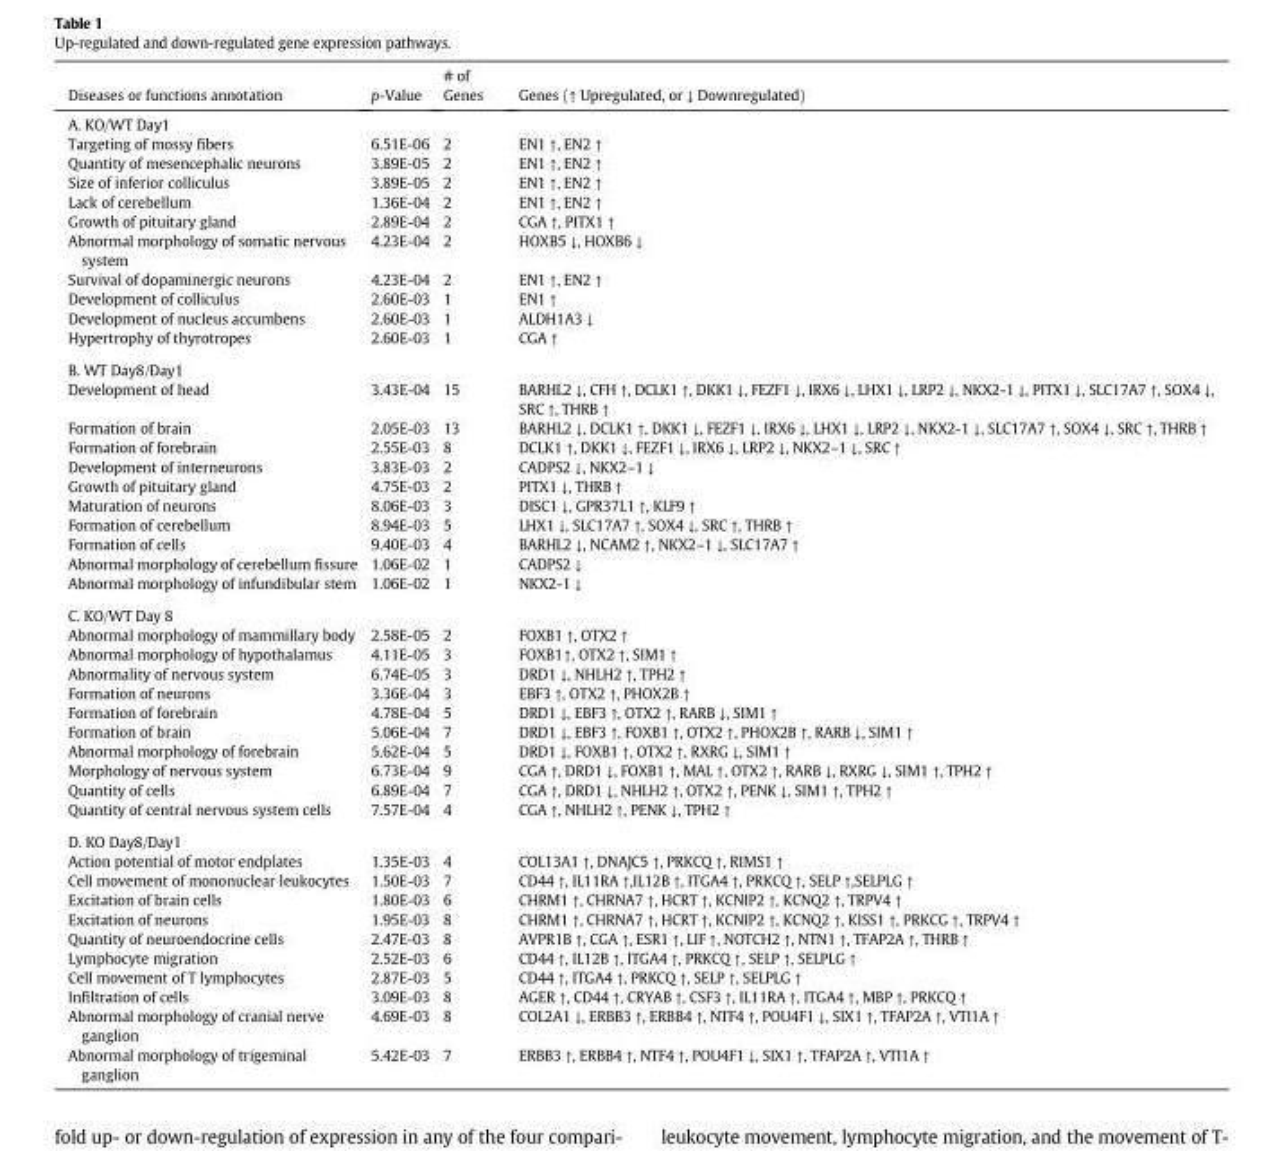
<table><thead><tr><td>Diseases or functions annotation</td><td>p-Value</td><td># of Genes</td><td>Genes (↑ Upregulated, or ↓ Downregulated)</td></tr></thead><tbody><tr><td colspan="4">A. KO/WT Day1</td></tr><tr><td>Targeting of mossy fibers</td><td>6.51E-06</td><td>2</td><td>EN1 ↑, EN2 ↑</td></tr><tr><td>Quantity of mesencephalic neurons</td><td>3.89E-05</td><td>2</td><td>EN1 ↑, EN2 ↑</td></tr><tr><td>Size of inferior colliculus</td><td>3.89E-05</td><td>2</td><td>EN1 ↑, EN2 ↑</td></tr><tr><td>Lack of cerebellum</td><td>1.36E-04</td><td>2</td><td>EN1 ↑, EN2 ↑</td></tr><tr><td>Growth of pituitary gland</td><td>2.89E-04</td><td>2</td><td>CGA ↑, PITX1 ↑</td></tr><tr><td>Abnormal morphology of somatic nervous system</td><td>4.23E-04</td><td>2</td><td>HOXB5 ↓, HOXB6 ↓</td></tr><tr><td>Survival of dopaminergic neurons</td><td>4.23E-04</td><td>2</td><td>EN1 ↑, EN2 ↑</td></tr><tr><td>Development of colliculus</td><td>2.60E-03</td><td>1</td><td>EN1 ↑</td></tr><tr><td>Development of nucleus accumbens</td><td>2.60E-03</td><td>1</td><td>ALDH1A3 ↓</td></tr><tr><td>Hypertrophy of thyrotropes</td><td>2.60E-03</td><td>1</td><td>CGA ↑</td></tr><tr><td colspan="4">B. WT Day8/Day1</td></tr><tr><td>Development of head</td><td>3.43E-04</td><td>15</td><td>BARHL2 ↓, CFH ↑, DCLK1 ↑, DKK1 ↓, FEZF1 ↓, IRX6 ↓, LHX1 ↓, LRP2 ↓, NKX2-1 ↓, PITX1 ↓, SLC17A7 ↑, SOX4 ↓, SRC ↑, THRB ↑</td></tr><tr><td>Formation of brain</td><td>2.05E-03</td><td>13</td><td>BARHL2 ↓, DCLK1 ↑, DKK1 ↓, FEZF1 ↓, IRX6 ↓, LHX1 ↓, LRP2 ↓, NKX2-1 ↓, SLC17A7 ↑, SOX4 ↓, SRC ↑, THRB ↑</td></tr><tr><td>Formation of forebrain</td><td>2.55E-03</td><td>8</td><td>DCLK1 ↑, DKK1 ↓, FEZF1 ↓, IRX6 ↓, LRP2 ↓, NKX2–1 ↓, SRC ↑</td></tr><tr><td>Development of interneurons</td><td>3.83E-03</td><td>2</td><td>CADPS2 ↓, NKX2–1 ↓</td></tr><tr><td>Growth of pituitary gland</td><td>4.75E-03</td><td>2</td><td>PITX1 ↓, THRB ↑</td></tr><tr><td>Maturation of neurons</td><td>8.06E-03</td><td>3</td><td>DISC1 ↓, GPR37L1 ↑, KLF9 ↑</td></tr><tr><td>Formation of cerebellum</td><td>8.94E-03</td><td>5</td><td>LHX1 ↓, SLC17A7 ↑, SOX4 ↓, SRC ↑, THRB ↑</td></tr><tr><td>Formation of cells</td><td>9.40E-03</td><td>4</td><td>BARHL2 ↓, NCAM2 ↑, NKX2–1 ↓, SLC17A7 ↑</td></tr><tr><td>Abnormal morphology of cerebellum fissure</td><td>1.06E-02</td><td>1</td><td>CADPS2 ↓</td></tr><tr><td>Abnormal morphology of infundibular stem</td><td>1.06E-02</td><td>1</td><td>NKX2-1 ↓</td></tr><tr><td colspan="4">C. KO/WT Day 8</td></tr><tr><td>Abnormal morphology of mammillary body</td><td>2.58E-05</td><td>2</td><td>FOXB1 ↑, OTX2 ↑</td></tr><tr><td>Abnormal morphology of hypothalamus</td><td>4.11E-05</td><td>3</td><td>FOXB1↑, OTX2 ↑, SIM1 ↑</td></tr><tr><td>Abnormality of nervous system</td><td>6.74E-05</td><td>3</td><td>DRD1 ↓, NHLH2 ↑, TPH2 ↑</td></tr><tr><td>Formation of neurons</td><td>3.36E-04</td><td>3</td><td>EBF3 ↑, OTX2 ↑, PHOX2B ↑</td></tr><tr><td>Formation of forebrain</td><td>4.78E-04</td><td>5</td><td>DRD1 ↓, EBF3 ↑, OTX2 ↑, RARB ↓, SIM1 ↑</td></tr><tr><td>Formation of brain</td><td>5.06E-04</td><td>7</td><td>DRD1 ↓, EBF3 ↑, FOXB1 ↑, OTX2 ↑, PHOX2B ↑, RARB ↓, SIM1 ↑</td></tr><tr><td>Abnormal morphology of forebrain</td><td>5.62E-04</td><td>5</td><td>DRD1 ↓, FOXB1 ↑, OTX2 ↑, RXRG ↓, SIM1 ↑</td></tr><tr><td>Morphology of nervous system</td><td>6.73E-04</td><td>9</td><td>CGA ↑, DRD1 ↓, FOXB1 ↑, MAL ↑, OTX2 ↑, RARB ↓, RXRG ↓, SIM1 ↑, TPH2 ↑</td></tr><tr><td>Quantity of cells</td><td>6.89E-04</td><td>7</td><td>CGA ↑, DRD1 ↓, NHLH2 ↑, OTX2 ↑, PENK ↓, SIM1 ↑, TPH2 ↑</td></tr><tr><td>Quantity of central nervous system cells</td><td>7.57E-04</td><td>4</td><td>CGA ↑, NHLH2 ↑, PENK ↓, TPH2 ↑</td></tr><tr><td colspan="4">D. KO Day8/Day1</td></tr><tr><td>Action potential of motor endplates</td><td>1.35E-03</td><td>4</td><td>COL13A1 ↑, DNAJC5 ↑, PRKCQ ↑, RIMS1 ↑</td></tr><tr><td>Cell movement of mononuclear leukocytes</td><td>1.50E-03</td><td>7</td><td>CD44 ↑, IL11RA ↑,IL12B ↑, ITGA4 ↑, PRKCQ ↑, SELP ↑,SELPLG ↑</td></tr><tr><td>Excitation of brain cells</td><td>1.80E-03</td><td>6</td><td>CHRM1 ↑, CHRNA7 ↑, HCRT ↑, KCNIP2 ↑, KCNQ2 ↑, TRPV4 ↑</td></tr><tr><td>Excitation of neurons</td><td>1.95E-03</td><td>8</td><td>CHRM1 ↑, CHRNA7 ↑, HCRT ↑, KCNIP2 ↑, KCNQ2 ↑, KISS1 ↑, PRKCG ↑, TRPV4 ↑</td></tr><tr><td>Quantity of neuroendocrine cells</td><td>2.47E-03</td><td>8</td><td>AVPR1B ↑, CGA ↑, ESR1 ↑, LIF ↑, NOTCH2 ↑, NTN1 ↑, TFAP2A ↑, THRB ↑</td></tr><tr><td>Lymphocyte migration</td><td>2.52E-03</td><td>6</td><td>CD44 ↑, IL12B ↑, ITGA4 ↑, PRKCQ ↑, SELP ↑, SELPLG ↑</td></tr><tr><td>Cell movement of T lymphocytes</td><td>2.87E-03</td><td>5</td><td>CD44 ↑, ITGA4 ↑, PRKCQ ↑, SELP ↑, SELPLG ↑</td></tr><tr><td>Infiltration of cells</td><td>3.09E-03</td><td>8</td><td>AGER ↑, CD44 ↑, CRYAB ↑, CSF3 ↑, IL11RA ↑, ITGA4 ↑, MBP ↑, PRKCQ ↑</td></tr><tr><td>Abnormal morphology of cranial nerve ganglion</td><td>4.69E-03</td><td>8</td><td>COL2A1 ↓, ERBB3 ↑, ERBB4 ↑, NTF4 ↑, POU4F1 ↓, SIX1 ↑, TFAP2A ↑, VTI1A ↑</td></tr><tr><td>Abnormal morphology of trigeminal ganglion</td><td>5.42E-03</td><td>7</td><td>ERBB3 ↑, ERBB4 ↑, NTF4 ↑, POU4F1 ↓, SIX1 ↑, TFAP2A ↑, VTI1A ↑</td></tr></tbody></table>